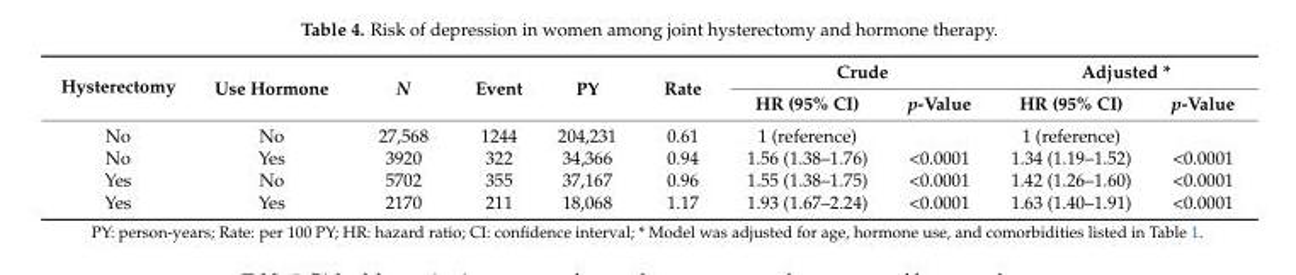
<table><thead><tr><td rowspan="2">Hysterectomy</td><td rowspan="2">Use Hormone</td><td rowspan="2">N</td><td rowspan="2">Event</td><td rowspan="2">PY</td><td rowspan="2">Rate</td><td colspan="2">Crude</td><td colspan="2">Adjusted *</td></tr><tr><td>HR (95% CI)</td><td>p-Value</td><td>HR (95% CI)</td><td>p-Value</td></tr></thead><tbody><tr><td>No</td><td>No</td><td>27,568</td><td>1244</td><td>204,231</td><td>0.61</td><td>1 (reference)</td><td></td><td>1 (reference)</td><td></td></tr><tr><td>No</td><td>Yes</td><td>3920</td><td>322</td><td>34,366</td><td>0.94</td><td>1.56 (1.38–1.76)</td><td>&lt;0.0001</td><td>1.34 (1.19–1.52)</td><td>&lt;0.0001</td></tr><tr><td>Yes</td><td>No</td><td>5702</td><td>355</td><td>37,167</td><td>0.96</td><td>1.55 (1.38–1.75)</td><td>&lt;0.0001</td><td>1.42 (1.26–1.60)</td><td>&lt;0.0001</td></tr><tr><td>Yes</td><td>Yes</td><td>2170</td><td>211</td><td>18,068</td><td>1.17</td><td>1.93 (1.67–2.24)</td><td>&lt;0.0001</td><td>1.63 (1.40–1.91)</td><td>&lt;0.0001</td></tr></tbody></table>